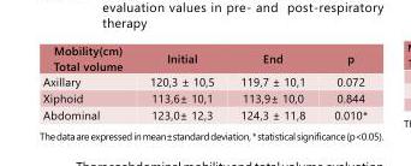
<table><tbody><tr><td>Mobility(cm) Total volume</td><td>Initial</td><td>End</td><td>p</td></tr><tr><td>Axillary</td><td>120,3 ± 10,5</td><td>119,7 ± 10,1</td><td>0.072</td></tr><tr><td>Xiphoid</td><td>113,6± 10,1</td><td>113,9± 10,0</td><td>0.844</td></tr><tr><td>Abdominal</td><td>123,0± 12,3</td><td>124,3 ± 11,8</td><td>0.010*</td></tr></tbody></table>